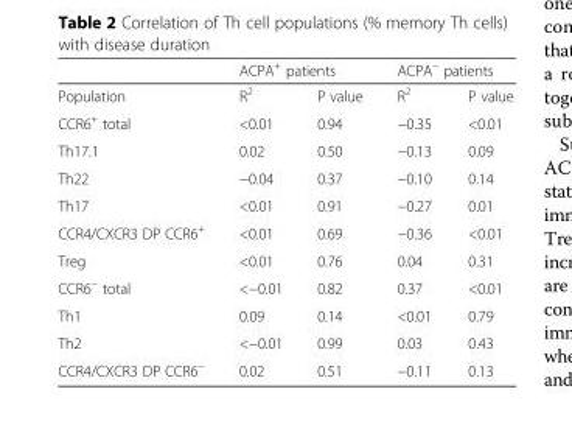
<table><thead><tr><td rowspan="2">Population</td><td colspan="2">ACPA<sup>+</sup> patients</td><td colspan="2">ACPA<sup>−</sup> patients</td></tr><tr><td>R<sup>2</sup></td><td>P value</td><td>R<sup>2</sup></td><td>P value</td></tr></thead><tbody><tr><td>CCR6<sup>+</sup> total</td><td>&lt;0.01</td><td>0.94</td><td>−0.35</td><td>&lt;0.01</td></tr><tr><td>Th17.1</td><td>0.02</td><td>0.50</td><td>−0.13</td><td>0.09</td></tr><tr><td>Th22</td><td>−0.04</td><td>0.37</td><td>−0.10</td><td>0.14</td></tr><tr><td>Th17</td><td>&lt;0.01</td><td>0.91</td><td>−0.27</td><td>0.01</td></tr><tr><td>CCR4/CXCR3 DP CCR6<sup>+</sup></td><td>&lt;0.01</td><td>0.69</td><td>−0.36</td><td>&lt;0.01</td></tr><tr><td>Treg</td><td>&lt;0.01</td><td>0.76</td><td>0.04</td><td>0.31</td></tr><tr><td>CCR6<sup>−</sup> total</td><td>&lt;−0.01</td><td>0.82</td><td>0.37</td><td>&lt;0.01</td></tr><tr><td>Th1</td><td>0.09</td><td>0.14</td><td>&lt;0.01</td><td>0.79</td></tr><tr><td>Th2</td><td>&lt;−0.01</td><td>0.99</td><td>0.03</td><td>0.43</td></tr><tr><td>CCR4/CXCR3 DP CCR6<sup>−</sup></td><td>0.02</td><td>0.51</td><td>−0.11</td><td>0.13</td></tr></tbody></table>